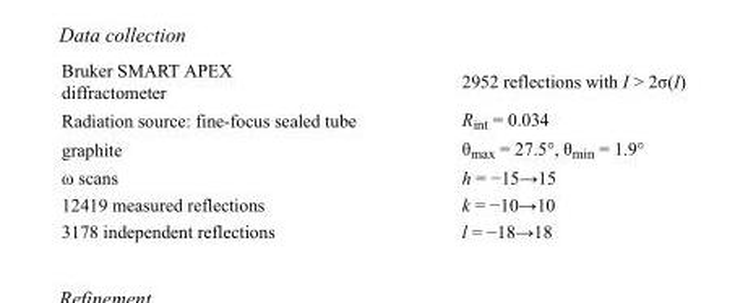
<table><tbody><tr><td>Bruker SMART APEX diffractometer</td><td>2952 reflections with I &gt; 2σ(I)</td></tr><tr><td>Radiation source: fine-focus sealed tube</td><td>R<sub>int</sub> = 0.034</td></tr><tr><td>graphite</td><td>θ<sub>max</sub> = 27.5°, θ<sub>min</sub> = 1.9°</td></tr><tr><td>ω scans</td><td>h = −15→15</td></tr><tr><td>12419 measured reflections</td><td>k = −10→10</td></tr><tr><td>3178 independent reflections</td><td>l = −18→18</td></tr></tbody></table>